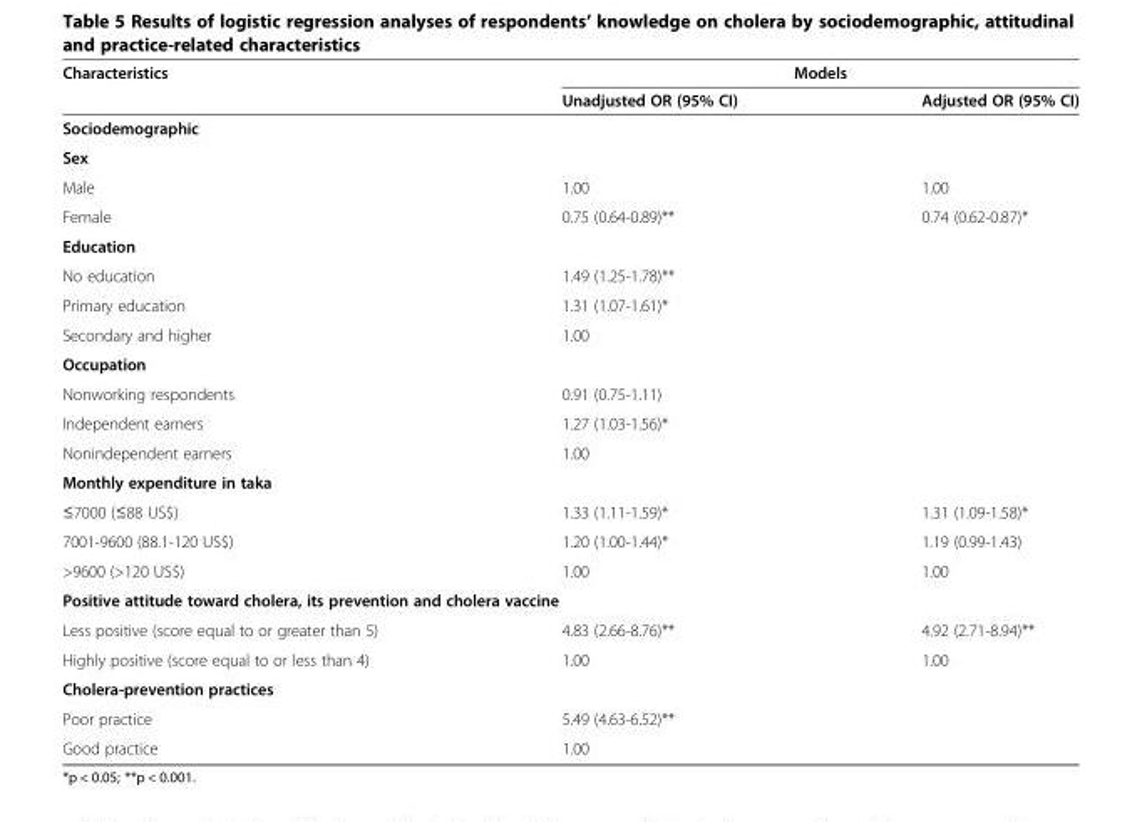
<table><thead><tr><td rowspan="2">Characteristics</td><td colspan="2">Models</td></tr><tr><td>Unadjusted OR (95% CI)</td><td>Adjusted OR (95% CI)</td></tr></thead><tbody><tr><td colspan="3">Sociodemographic</td></tr><tr><td colspan="3">Sex</td></tr><tr><td>Male</td><td>1.00</td><td>1.00</td></tr><tr><td>Female</td><td>0.75 (0.64-0.89)**</td><td>0.74 (0.62-0.87)*</td></tr><tr><td colspan="3">Education</td></tr><tr><td>No education</td><td>1.49 (1.25-1.78)**</td><td></td></tr><tr><td>Primary education</td><td>1.31 (1.07-1.61)*</td><td></td></tr><tr><td>Secondary and higher</td><td>1.00</td><td></td></tr><tr><td colspan="3">Occupation</td></tr><tr><td>Nonworking respondents</td><td>0.91 (0.75-1.11)</td><td></td></tr><tr><td>Independent earners</td><td>1.27 (1.03-1.56)*</td><td></td></tr><tr><td>Nonindependent earners</td><td>1.00</td><td></td></tr><tr><td colspan="3">Monthly expenditure in taka</td></tr><tr><td>≤7000 (≤88 US$)</td><td>1.33 (1.11-1.59)*</td><td>1.31 (1.09-1.58)*</td></tr><tr><td>7001-9600 (88.1-120 US$)</td><td>1.20 (1.00-1.44)*</td><td>1.19 (0.99-1.43)</td></tr><tr><td>&gt;9600 (&gt;120 US$)</td><td>1.00</td><td>1.00</td></tr><tr><td colspan="3">Positive attitude toward cholera, its prevention and cholera vaccine</td></tr><tr><td>Less positive (score equal to or greater than 5)</td><td>4.83 (2.66-8.76)**</td><td>4.92 (2.71-8.94)**</td></tr><tr><td>Highly positive (score equal to or less than 4)</td><td>1.00</td><td>1.00</td></tr><tr><td colspan="3">Cholera-prevention practices</td></tr><tr><td>Poor practice</td><td>5.49 (4.63-6.52)**</td><td></td></tr><tr><td>Good practice</td><td>1.00</td><td></td></tr></tbody></table>